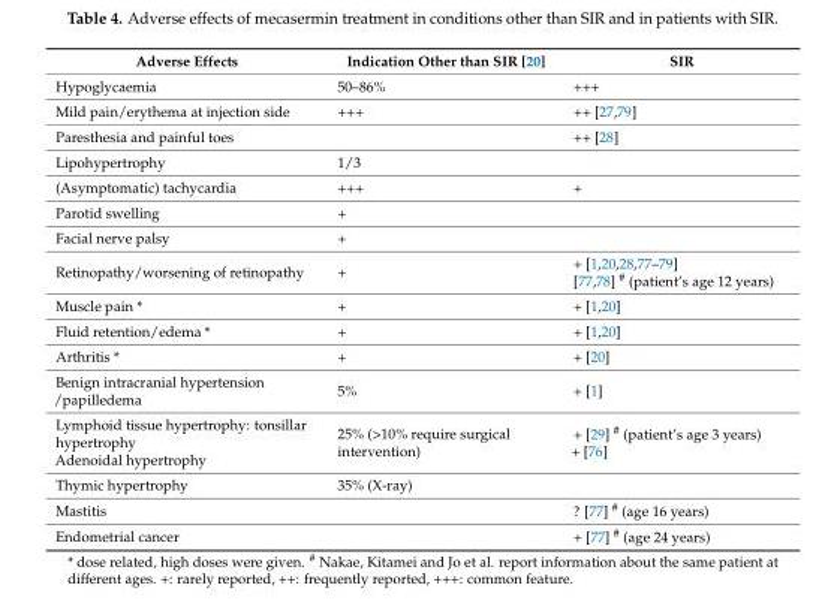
<table><thead><tr><td>Adverse Effects</td><td>Indication Other than SIR [20]</td><td>SIR</td></tr></thead><tbody><tr><td>Hypoglycaemia</td><td>50–86%</td><td>+++</td></tr><tr><td>Mild pain/erythema at injection side</td><td>+++</td><td>++ [27,79]</td></tr><tr><td>Paresthesia and painful toes</td><td></td><td>++ [28]</td></tr><tr><td>Lipohypertrophy</td><td>1/3</td><td></td></tr><tr><td>(Asymptomatic) tachycardia</td><td>+++</td><td>+</td></tr><tr><td>Parotid swelling</td><td>+</td><td></td></tr><tr><td>Facial nerve palsy</td><td>+</td><td></td></tr><tr><td>Retinopathy/worsening of retinopathy</td><td>+</td><td>+ [1,20,28,77–79] [77,78] # (patient’s age 12 years)</td></tr><tr><td>Muscle pain *</td><td>+</td><td>+ [1,20]</td></tr><tr><td>Fluid retention/edema *</td><td>+</td><td>+ [1,20]</td></tr><tr><td>Arthritis *</td><td>+</td><td>+ [20]</td></tr><tr><td>Benign intracranial hypertension /papilledema</td><td>5%</td><td>+ [1]</td></tr><tr><td>Lymphoid tissue hypertrophy: tonsillar hypertrophy Adenoidal hypertrophy</td><td>25% (&gt;10% require surgical intervention)</td><td>+ [29] <sup>#</sup> (patient’s age 3 years) + [76]</td></tr><tr><td>Thymic hypertrophy</td><td>35% (X-ray)</td><td></td></tr><tr><td>Mastitis</td><td></td><td>? [77] <sup>#</sup> (age 16 years)</td></tr><tr><td>Endometrial cancer</td><td></td><td>+ [77] <sup>#</sup> (age 24 years)</td></tr></tbody></table>